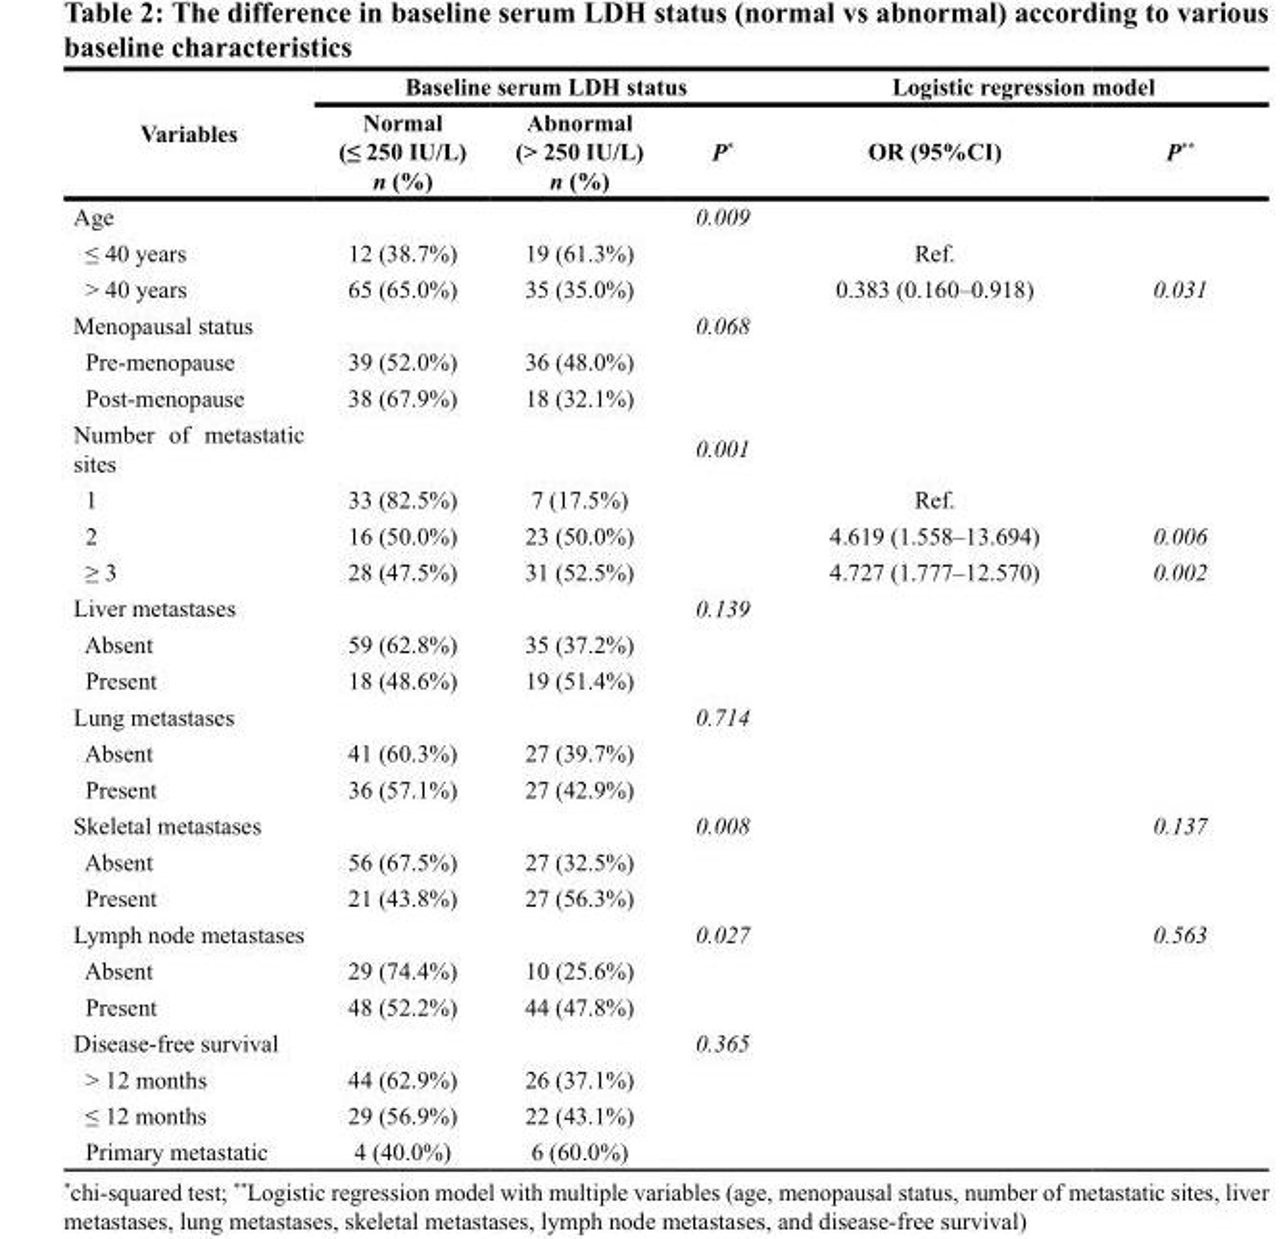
<table><thead><tr><td rowspan="2">Variables</td><td colspan="3">Baseline serum LDH status</td><td colspan="2">Logistic regression model</td></tr><tr><td>Normal (≤ 250 IU/L) n (%)</td><td>Abnormal (&gt; 250 IU/L) n (%)</td><td>P*</td><td>OR (95%CI)</td><td>P**</td></tr></thead><tbody><tr><td>Age</td><td></td><td></td><td>0.009</td><td></td><td></td></tr><tr><td>≤ 40 years</td><td>12 (38.7%)</td><td>19 (61.3%)</td><td></td><td>Ref.</td><td></td></tr><tr><td>&gt; 40 years</td><td>65 (65.0%)</td><td>35 (35.0%)</td><td></td><td>0.383 (0.160–0.918)</td><td>0.031</td></tr><tr><td>Menopausal status</td><td></td><td></td><td>0.068</td><td></td><td></td></tr><tr><td>Pre-menopause</td><td>39 (52.0%)</td><td>36 (48.0%)</td><td></td><td></td><td></td></tr><tr><td>Post-menopause</td><td>38 (67.9%)</td><td>18 (32.1%)</td><td></td><td></td><td></td></tr><tr><td>Number of metastatic sites</td><td></td><td></td><td>0.001</td><td></td><td></td></tr><tr><td>1</td><td>33 (82.5%)</td><td>7 (17.5%)</td><td></td><td>Ref.</td><td></td></tr><tr><td>2</td><td>16 (50.0%)</td><td>23 (50.0%)</td><td></td><td>4.619 (1.558–13.694)</td><td>0.006</td></tr><tr><td>≥ 3</td><td>28 (47.5%)</td><td>31 (52.5%)</td><td></td><td>4.727 (1.777–12.570)</td><td>0.002</td></tr><tr><td>Liver metastases</td><td></td><td></td><td>0.139</td><td></td><td></td></tr><tr><td>Absent</td><td>59 (62.8%)</td><td>35 (37.2%)</td><td></td><td></td><td></td></tr><tr><td>Present</td><td>18 (48.6%)</td><td>19 (51.4%)</td><td></td><td></td><td></td></tr><tr><td>Lung metastases</td><td></td><td></td><td>0.714</td><td></td><td></td></tr><tr><td>Absent</td><td>41 (60.3%)</td><td>27 (39.7%)</td><td></td><td></td><td></td></tr><tr><td>Present</td><td>36 (57.1%)</td><td>27 (42.9%)</td><td></td><td></td><td></td></tr><tr><td>Skeletal metastases</td><td></td><td></td><td>0.008</td><td></td><td>0.137</td></tr><tr><td>Absent</td><td>56 (67.5%)</td><td>27 (32.5%)</td><td></td><td></td><td></td></tr><tr><td>Present</td><td>21 (43.8%)</td><td>27 (56.3%)</td><td></td><td></td><td></td></tr><tr><td>Lymph node metastases</td><td></td><td></td><td>0.027</td><td></td><td>0.563</td></tr><tr><td>Absent</td><td>29 (74.4%)</td><td>10 (25.6%)</td><td></td><td></td><td></td></tr><tr><td>Present</td><td>48 (52.2%)</td><td>44 (47.8%)</td><td></td><td></td><td></td></tr><tr><td>Disease-free survival</td><td></td><td></td><td>0.365</td><td></td><td></td></tr><tr><td>&gt; 12 months</td><td>44 (62.9%)</td><td>26 (37.1%)</td><td></td><td></td><td></td></tr><tr><td>≤ 12 months</td><td>29 (56.9%)</td><td>22 (43.1%)</td><td></td><td></td><td></td></tr><tr><td>Primary metastatic</td><td>4 (40.0%)</td><td>6 (60.0%)</td><td></td><td></td><td></td></tr></tbody></table>